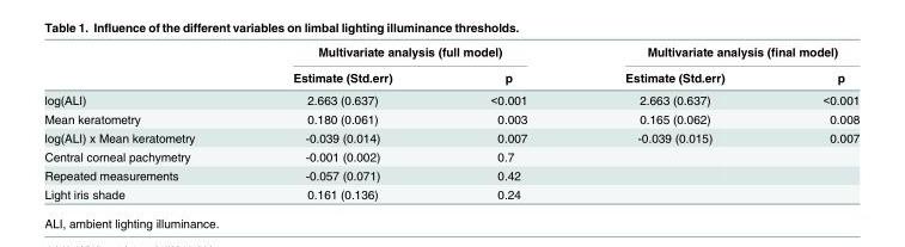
<table><thead><tr><td rowspan="2"></td><td colspan="2">Multivariate analysis (full model)</td><td colspan="2">Multivariate analysis (final model)</td></tr><tr><td>Estimate (Std.err)</td><td>p</td><td>Estimate (Std.err)</td><td>p</td></tr></thead><tbody><tr><td>log(ALI)</td><td>2.663 (0.637)</td><td>&lt;0.001</td><td>2.663 (0.637)</td><td>&lt;0.001</td></tr><tr><td>Mean keratometry</td><td>0.180 (0.061)</td><td>0.003</td><td>0.165 (0.062)</td><td>0.008</td></tr><tr><td>log(ALI) x Mean keratometry</td><td>-0.039 (0.014)</td><td>0.007</td><td>-0.039 (0.015)</td><td>0.007</td></tr><tr><td>Central corneal pachymetry</td><td>-0.001 (0.002)</td><td>0.7</td><td></td><td></td></tr><tr><td>Repeated measurements</td><td>-0.057 (0.071)</td><td>0.42</td><td></td><td></td></tr><tr><td>Light iris shade</td><td>0.161 (0.136)</td><td>0.24</td><td></td><td></td></tr></tbody></table>